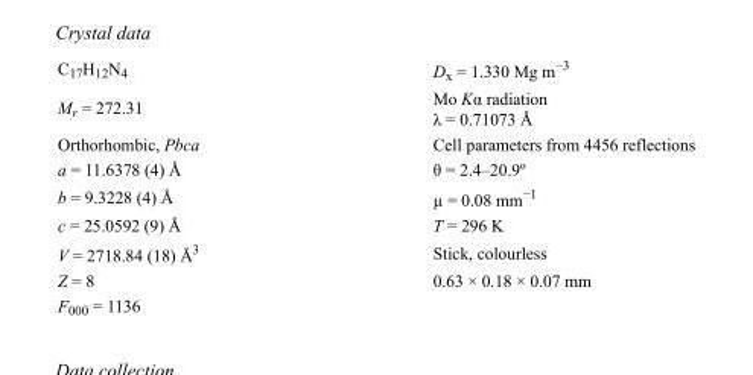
<table><tbody><tr><td>C<sub>17</sub>H<sub>12</sub>N<sub>4</sub></td><td>D<sub>x</sub> = 1.330 Mg m<sup>−3</sup></td></tr><tr><td>M<sub>r</sub> = 272.31</td><td>Mo Kα radiation λ = 0.71073 Å</td></tr><tr><td>Orthorhombic, Pbca</td><td>Cell parameters from 4456 reflections</td></tr><tr><td>a = 11.6378 (4) Å</td><td>θ = 2.4–20.9º</td></tr><tr><td>b = 9.3228 (4) Å</td><td>µ = 0.08 mm<sup>−1</sup></td></tr><tr><td>c = 25.0592 (9) Å</td><td>T = 296 K</td></tr><tr><td>V = 2718.84 (18) Å<sup>3</sup></td><td>Stick, colourless</td></tr><tr><td>Z = 8</td><td>0.63 × 0.18 × 0.07 mm</td></tr><tr><td>F000 = 1136</td><td></td></tr></tbody></table>